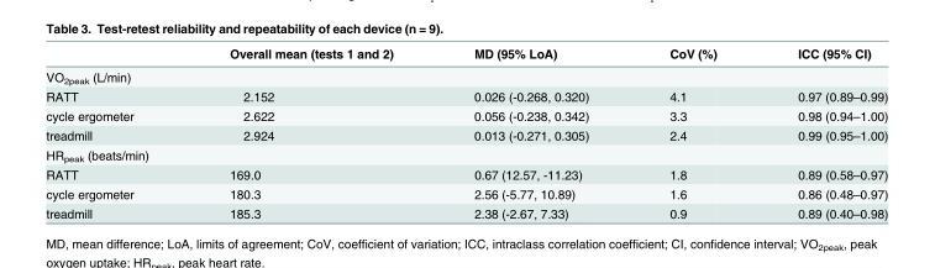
<table><thead><tr><td></td><td>Overall mean (tests 1 and 2)</td><td>MD (95% LoA)</td><td>CoV (%)</td><td>ICC (95% CI)</td></tr></thead><tbody><tr><td colspan="5">VO<sub>2peak</sub> (L/min)</td></tr><tr><td>RATT</td><td>2.152</td><td>0.026 (-0.268, 0.320)</td><td>4.1</td><td>0.97 (0.89–0.99)</td></tr><tr><td>cycle ergometer</td><td>2.622</td><td>0.056 (-0.238, 0.342)</td><td>3.3</td><td>0.98 (0.94–1.00)</td></tr><tr><td>treadmill</td><td>2.924</td><td>0.013 (-0.271, 0.305)</td><td>2.4</td><td>0.99 (0.95–1.00)</td></tr><tr><td colspan="5">HR<sub>peak</sub> (beats/min)</td></tr><tr><td>RATT</td><td>169.0</td><td>0.67 (12.57, -11.23)</td><td>1.8</td><td>0.89 (0.58–0.97)</td></tr><tr><td>cycle ergometer</td><td>180.3</td><td>2.56 (-5.77, 10.89)</td><td>1.6</td><td>0.86 (0.48–0.97)</td></tr><tr><td>treadmill</td><td>185.3</td><td>2.38 (-2.67, 7.33)</td><td>0.9</td><td>0.89 (0.40–0.98)</td></tr></tbody></table>